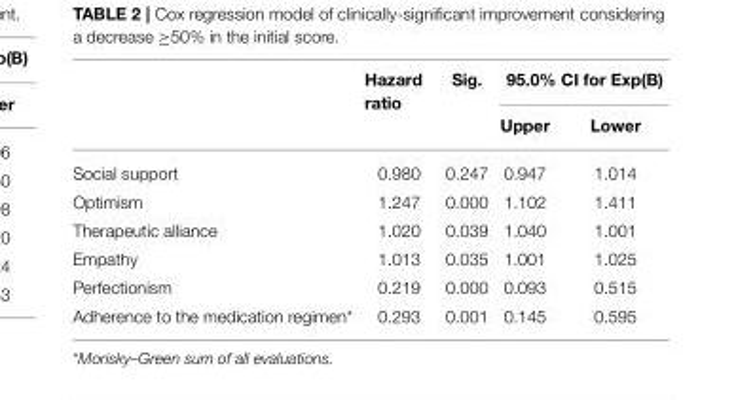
<table><thead><tr><td rowspan="2"></td><td rowspan="2">Hazard ratio</td><td rowspan="2">Sig.</td><td colspan="2">95.0% CI for Exp(B)</td></tr><tr><td>Upper</td><td>Lower</td></tr></thead><tbody><tr><td>Social support</td><td>0.980</td><td>0.247</td><td>0.947</td><td>1.014</td></tr><tr><td>Optimism</td><td>1.247</td><td>0.000</td><td>1.102</td><td>1.411</td></tr><tr><td>Therapeutic alliance</td><td>1.020</td><td>0.039</td><td>1.040</td><td>1.001</td></tr><tr><td>Empathy</td><td>1.013</td><td>0.035</td><td>1.001</td><td>1.025</td></tr><tr><td>Perfectionism</td><td>0.219</td><td>0.000</td><td>0.093</td><td>0.515</td></tr><tr><td>Adherence to the medication regimen*</td><td>0.293</td><td>0.001</td><td>0.145</td><td>0.595</td></tr></tbody></table>